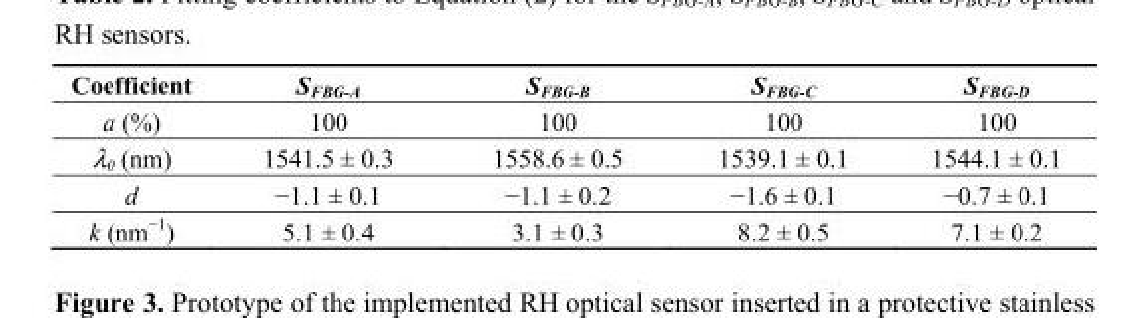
<table><tbody><tr><td>Coefficient</td><td>S<sub>FBG-A</sub></td><td>S<sub>FBG-B</sub></td><td>S<sub>FBG-C</sub></td><td>S<sub>FBG-D</sub></td></tr><tr><td>a (%)</td><td>100</td><td>100</td><td>100</td><td>100</td></tr><tr><td>λ<sub>0</sub> (nm)</td><td>1541.5 ± 0.3</td><td>1558.6 ± 0.5</td><td>1539.1 ± 0.1</td><td>1544.1 ± 0.1</td></tr><tr><td>d</td><td>−1.1 ± 0.1</td><td>−1.1 ± 0.2</td><td>−1.6 ± 0.1</td><td>−0.7 ± 0.1</td></tr><tr><td>k (nm<sup>−1</sup>)</td><td>5.1 ± 0.4</td><td>3.1 ± 0.3</td><td>8.2 ± 0.5</td><td>7.1 ± 0.2</td></tr></tbody></table>